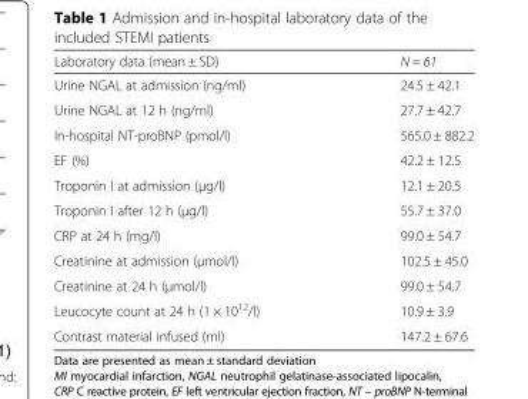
<table><thead><tr><td>Laboratory data (mean ± SD)</td><td>N = 61</td></tr></thead><tbody><tr><td>Urine NGAL at admission (ng/ml)</td><td>24.5 ± 42.1</td></tr><tr><td>Urine NGAL at 12 h (ng/ml)</td><td>27.7 ± 42.7</td></tr><tr><td>In-hospital NT-proBNP (pmol/l)</td><td>565.0 ± 882.2</td></tr><tr><td>EF (%)</td><td>42.2 ± 12.5</td></tr><tr><td>Troponin I at admission (μg/l)</td><td>12.1 ± 20.5</td></tr><tr><td>Troponin I after 12 h (μg/l)</td><td>55.7 ± 37.0</td></tr><tr><td>CRP at 24 h (mg/l)</td><td>99.0 ± 54.7</td></tr><tr><td>Creatinine at admission (μmol/l)</td><td>102.5 ± 45.0</td></tr><tr><td>Creatinine at 24 h (μmol/l)</td><td>99.0 ± 54.7</td></tr><tr><td>Leucocyte count at 24 h (1 × 10<sup>12</sup>/l)</td><td>10.9 ± 3.9</td></tr><tr><td>Contrast material infused (ml)</td><td>147.2 ± 67.6</td></tr></tbody></table>